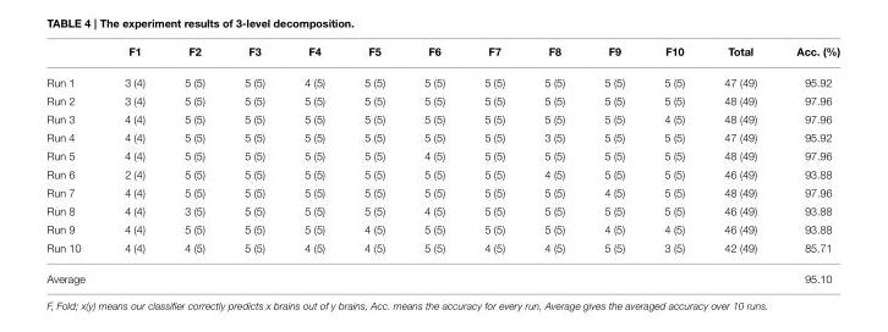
<table><thead><tr><td></td><td>F1</td><td>F2</td><td>F3</td><td>F4</td><td>F5</td><td>F6</td><td>F7</td><td>F8</td><td>F9</td><td>F10</td><td>Total</td><td>Acc. (%)</td></tr></thead><tbody><tr><td>Run 1</td><td>3 (4)</td><td>5 (5)</td><td>5 (5)</td><td>4 (5)</td><td>5 (5)</td><td>5 (5)</td><td>5 (5)</td><td>5 (5)</td><td>5 (5)</td><td>5 (5)</td><td>47 (49)</td><td>95.92</td></tr><tr><td>Run 2</td><td>3 (4)</td><td>5 (5)</td><td>5 (5)</td><td>5 (5)</td><td>5 (5)</td><td>5 (5)</td><td>5 (5)</td><td>5 (5)</td><td>5 (5)</td><td>5 (5)</td><td>48 (49)</td><td>97.96</td></tr><tr><td>Run 3</td><td>4 (4)</td><td>5 (5)</td><td>5 (5)</td><td>5 (5)</td><td>5 (5)</td><td>5 (5)</td><td>5 (5)</td><td>5 (5)</td><td>5 (5)</td><td>4 (5)</td><td>48 (49)</td><td>97.96</td></tr><tr><td>Run 4</td><td>4 (4)</td><td>5 (5)</td><td>5 (5)</td><td>5 (5)</td><td>5 (5)</td><td>5 (5)</td><td>5 (5)</td><td>3 (5)</td><td>5 (5)</td><td>5 (5)</td><td>47 (49)</td><td>95.92</td></tr><tr><td>Run 5</td><td>4 (4)</td><td>5 (5)</td><td>5 (5)</td><td>5 (5)</td><td>5 (5)</td><td>4 (5)</td><td>5 (5)</td><td>5 (5)</td><td>5 (5)</td><td>5 (5)</td><td>48 (49)</td><td>97.96</td></tr><tr><td>Run 6</td><td>2 (4)</td><td>5 (5)</td><td>5 (5)</td><td>5 (5)</td><td>5 (5)</td><td>5 (5)</td><td>5 (5)</td><td>4 (5)</td><td>5 (5)</td><td>5 (5)</td><td>46 (49)</td><td>93.88</td></tr><tr><td>Run 7</td><td>4 (4)</td><td>5 (5)</td><td>5 (5)</td><td>5 (5)</td><td>5 (5)</td><td>5 (5)</td><td>5 (5)</td><td>5 (5)</td><td>4 (5)</td><td>5 (5)</td><td>48 (49)</td><td>97.96</td></tr><tr><td>Run 8</td><td>4 (4)</td><td>3 (5)</td><td>5 (5)</td><td>5 (5)</td><td>5 (5)</td><td>4 (5)</td><td>5 (5)</td><td>5 (5)</td><td>5 (5)</td><td>5 (5)</td><td>46 (49)</td><td>93.88</td></tr><tr><td>Run 9</td><td>4 (4)</td><td>5 (5)</td><td>5 (5)</td><td>5 (5)</td><td>4 (5)</td><td>5 (5)</td><td>5 (5)</td><td>5 (5)</td><td>4 (5)</td><td>4 (5)</td><td>46 (49)</td><td>93.88</td></tr><tr><td>Run 10</td><td>4 (4)</td><td>4 (5)</td><td>5 (5)</td><td>4 (5)</td><td>4 (5)</td><td>5 (5)</td><td>4 (5)</td><td>4 (5)</td><td>5 (5)</td><td>3 (5)</td><td>42 (49)</td><td>85.71</td></tr><tr><td>Average</td><td></td><td></td><td></td><td></td><td></td><td></td><td></td><td></td><td></td><td></td><td></td><td>95.10</td></tr></tbody></table>